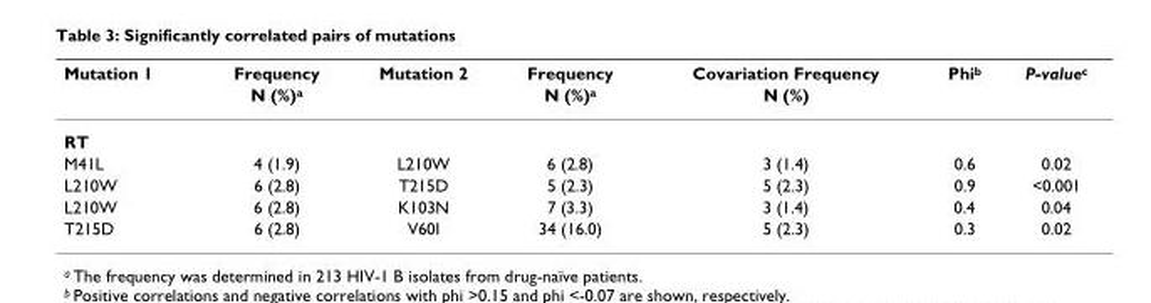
<table><thead><tr><td rowspan="2">Mutation 1</td><td rowspan="2">Frequency N (%)<sup>a</sup></td><td rowspan="2">Mutation 2</td><td rowspan="2">Frequency N (%)<sup>a</sup></td><td rowspan="2">Covariation Frequency N (%)</td><td rowspan="2">Phi<sup>b</sup></td><td rowspan="2">P-value<sup>c</sup></td></tr><tr></tr></thead><tbody><tr><td colspan="7">RT</td></tr><tr><td>M41L</td><td>4 (1.9)</td><td>L210W</td><td>6 (2.8)</td><td>3 (1.4)</td><td>0.6</td><td>0.02</td></tr><tr><td>L210W</td><td>6 (2.8)</td><td>T215D</td><td>5 (2.3)</td><td>5 (2.3)</td><td>0.9</td><td>&lt;0.001</td></tr><tr><td>L210W</td><td>6 (2.8)</td><td>K103N</td><td>7 (3.3)</td><td>3 (1.4)</td><td>0.4</td><td>0.04</td></tr><tr><td>T215D</td><td>6 (2.8)</td><td>V60I</td><td>34 (16.0)</td><td>5 (2.3)</td><td>0.3</td><td>0.02</td></tr></tbody></table>